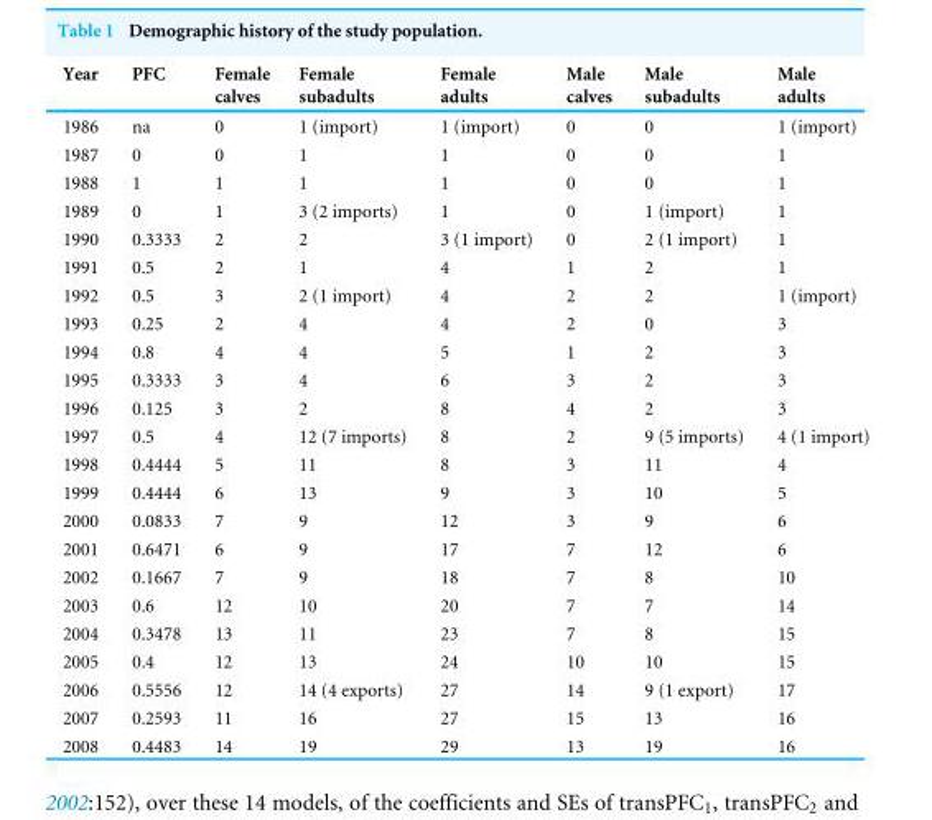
<table><thead><tr><td>Year</td><td>PFC</td><td>Female calves</td><td>Female subadults</td><td>Female adults</td><td>Male calves</td><td>Male subadults</td><td>Male adults</td></tr></thead><tbody><tr><td>1986</td><td>na</td><td>0</td><td>1 (import)</td><td>1 (import)</td><td>0</td><td>0</td><td>1 (import)</td></tr><tr><td>1987</td><td>0</td><td>0</td><td>1</td><td>1</td><td>0</td><td>0</td><td>1</td></tr><tr><td>1988</td><td>1</td><td>1</td><td>1</td><td>1</td><td>0</td><td>0</td><td>1</td></tr><tr><td>1989</td><td>0</td><td>1</td><td>3 (2 imports)</td><td>1</td><td>0</td><td>1 (import)</td><td>1</td></tr><tr><td>1990</td><td>0.3333</td><td>2</td><td>2</td><td>3 (1 import)</td><td>0</td><td>2 (1 import)</td><td>1</td></tr><tr><td>1991</td><td>0.5</td><td>2</td><td>1</td><td>4</td><td>1</td><td>2</td><td>1</td></tr><tr><td>1992</td><td>0.5</td><td>3</td><td>2 (1 import)</td><td>4</td><td>2</td><td>2</td><td>1 (import)</td></tr><tr><td>1993</td><td>0.25</td><td>2</td><td>4</td><td>4</td><td>2</td><td>0</td><td>3</td></tr><tr><td>1994</td><td>0.8</td><td>4</td><td>4</td><td>5</td><td>1</td><td>2</td><td>3</td></tr><tr><td>1995</td><td>0.3333</td><td>3</td><td>4</td><td>6</td><td>3</td><td>2</td><td>3</td></tr><tr><td>1996</td><td>0.125</td><td>3</td><td>2</td><td>8</td><td>4</td><td>2</td><td>3</td></tr><tr><td>1997</td><td>0.5</td><td>4</td><td>12 (7 imports)</td><td>8</td><td>2</td><td>9 (5 imports)</td><td>4 (1 import)</td></tr><tr><td>1998</td><td>0.4444</td><td>5</td><td>11</td><td>8</td><td>3</td><td>11</td><td>4</td></tr><tr><td>1999</td><td>0.4444</td><td>6</td><td>13</td><td>9</td><td>3</td><td>10</td><td>5</td></tr><tr><td>2000</td><td>0.0833</td><td>7</td><td>9</td><td>12</td><td>3</td><td>9</td><td>6</td></tr><tr><td>2001</td><td>0.6471</td><td>6</td><td>9</td><td>17</td><td>7</td><td>12</td><td>6</td></tr><tr><td>2002</td><td>0.1667</td><td>7</td><td>9</td><td>18</td><td>7</td><td>8</td><td>10</td></tr><tr><td>2003</td><td>0.6</td><td>12</td><td>10</td><td>20</td><td>7</td><td>7</td><td>14</td></tr><tr><td>2004</td><td>0.3478</td><td>13</td><td>11</td><td>23</td><td>7</td><td>8</td><td>15</td></tr><tr><td>2005</td><td>0.4</td><td>12</td><td>13</td><td>24</td><td>10</td><td>10</td><td>15</td></tr><tr><td>2006</td><td>0.5556</td><td>12</td><td>14 (4 exports)</td><td>27</td><td>14</td><td>9 (1 export)</td><td>17</td></tr><tr><td>2007</td><td>0.2593</td><td>11</td><td>16</td><td>27</td><td>15</td><td>13</td><td>16</td></tr><tr><td>2008</td><td>0.4483</td><td>14</td><td>19</td><td>29</td><td>13</td><td>19</td><td>16</td></tr></tbody></table>